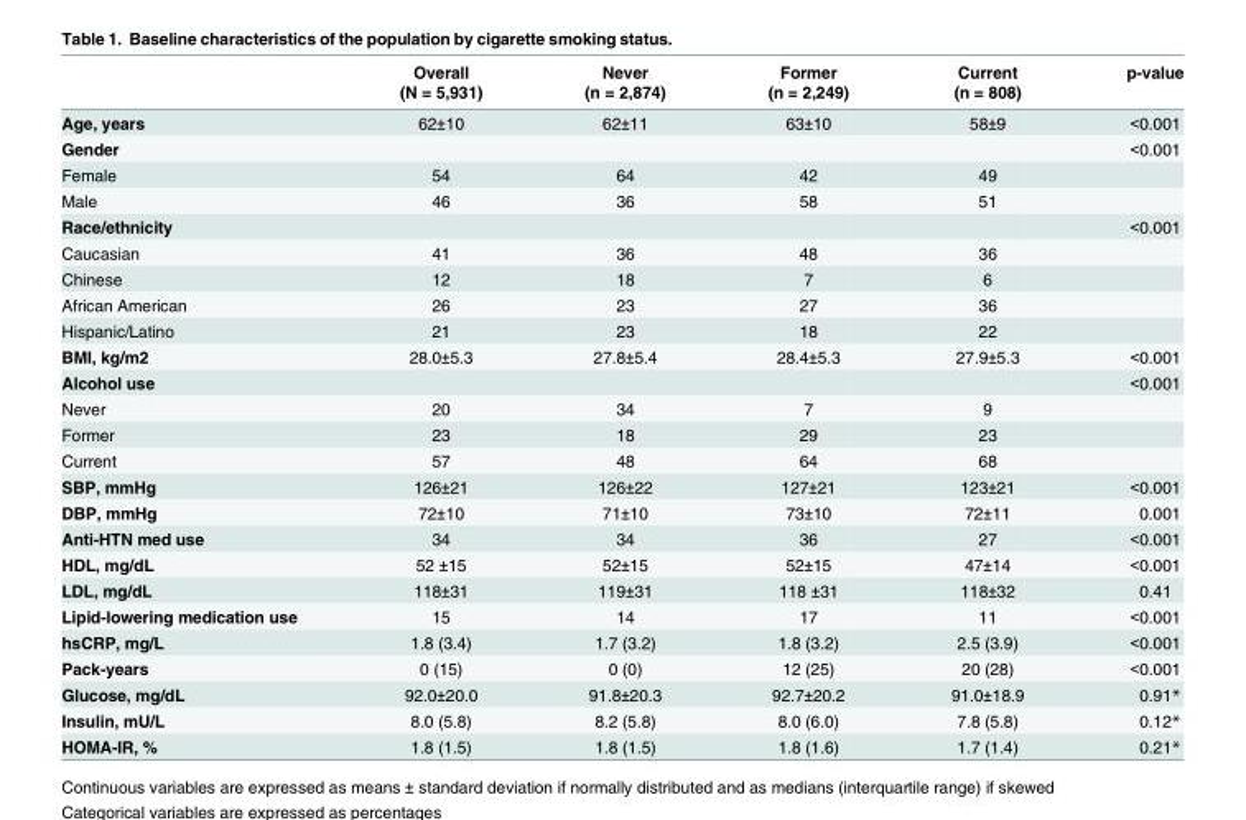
<table><thead><tr><td rowspan="2"></td><td rowspan="2">Overall (N = 5,931)</td><td rowspan="2">Never (n = 2,874)</td><td rowspan="2">Former (n = 2,249)</td><td rowspan="2">Current (n = 808)</td><td rowspan="2">p-value</td></tr><tr></tr></thead><tbody><tr><td>Age, years</td><td>62±10</td><td>62±11</td><td>63±10</td><td>58±9</td><td>&lt;0.001</td></tr><tr><td>Gender</td><td></td><td></td><td></td><td></td><td>&lt;0.001</td></tr><tr><td>Female</td><td>54</td><td>64</td><td>42</td><td>49</td><td></td></tr><tr><td>Male</td><td>46</td><td>36</td><td>58</td><td>51</td><td></td></tr><tr><td>Race/ethnicity</td><td></td><td></td><td></td><td></td><td>&lt;0.001</td></tr><tr><td>Caucasian</td><td>41</td><td>36</td><td>48</td><td>36</td><td></td></tr><tr><td>Chinese</td><td>12</td><td>18</td><td>7</td><td>6</td><td></td></tr><tr><td>African American</td><td>26</td><td>23</td><td>27</td><td>36</td><td></td></tr><tr><td>Hispanic/Latino</td><td>21</td><td>23</td><td>18</td><td>22</td><td></td></tr><tr><td>BMI, kg/m2</td><td>28.0±5.3</td><td>27.8±5.4</td><td>28.4±5.3</td><td>27.9±5.3</td><td>&lt;0.001</td></tr><tr><td>Alcohol use</td><td></td><td></td><td></td><td></td><td>&lt;0.001</td></tr><tr><td>Never</td><td>20</td><td>34</td><td>7</td><td>9</td><td></td></tr><tr><td>Former</td><td>23</td><td>18</td><td>29</td><td>23</td><td></td></tr><tr><td>Current</td><td>57</td><td>48</td><td>64</td><td>68</td><td></td></tr><tr><td>SBP, mmHg</td><td>126±21</td><td>126±22</td><td>127±21</td><td>123±21</td><td>&lt;0.001</td></tr><tr><td>DBP, mmHg</td><td>72±10</td><td>71±10</td><td>73±10</td><td>72±11</td><td>0.001</td></tr><tr><td>Anti-HTN med use</td><td>34</td><td>34</td><td>36</td><td>27</td><td>&lt;0.001</td></tr><tr><td>HDL, mg/dL</td><td>52 ±15</td><td>52±15</td><td>52±15</td><td>47±14</td><td>&lt;0.001</td></tr><tr><td>LDL, mg/dL</td><td>118±31</td><td>119±31</td><td>118 ±31</td><td>118±32</td><td>0.41</td></tr><tr><td>Lipid-lowering medication use</td><td>15</td><td>14</td><td>17</td><td>11</td><td>&lt;0.001</td></tr><tr><td>hsCRP, mg/L</td><td>1.8 (3.4)</td><td>1.7 (3.2)</td><td>1.8 (3.2)</td><td>2.5 (3.9)</td><td>&lt;0.001</td></tr><tr><td>Pack-years</td><td>0 (15)</td><td>0 (0)</td><td>12 (25)</td><td>20 (28)</td><td>&lt;0.001</td></tr><tr><td>Glucose, mg/dL</td><td>92.0±20.0</td><td>91.8±20.3</td><td>92.7±20.2</td><td>91.0±18.9</td><td>0.91*</td></tr><tr><td>Insulin, mU/L</td><td>8.0 (5.8)</td><td>8.2 (5.8)</td><td>8.0 (6.0)</td><td>7.8 (5.8)</td><td>0.12*</td></tr><tr><td>HOMA-IR, %</td><td>1.8 (1.5)</td><td>1.8 (1.5)</td><td>1.8 (1.6)</td><td>1.7 (1.4)</td><td>0.21*</td></tr></tbody></table>